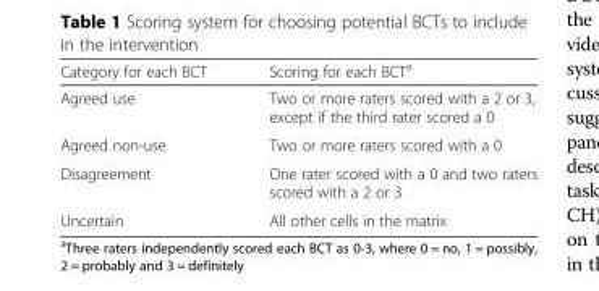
<table><thead><tr><td>Category for each BCT</td><td>Scoring for each BCT<sup>a</sup></td></tr></thead><tbody><tr><td>Agreed use</td><td>Two or more raters scored with a 2 or 3, except if the third rater scored a 0</td></tr><tr><td>Agreed non-use</td><td>Two or more raters scored with a 0</td></tr><tr><td>Disagreement</td><td>One rater scored with a 0 and two raters scored with a 2 or 3</td></tr><tr><td>Uncertain</td><td>All other cells in the matrix</td></tr></tbody></table>